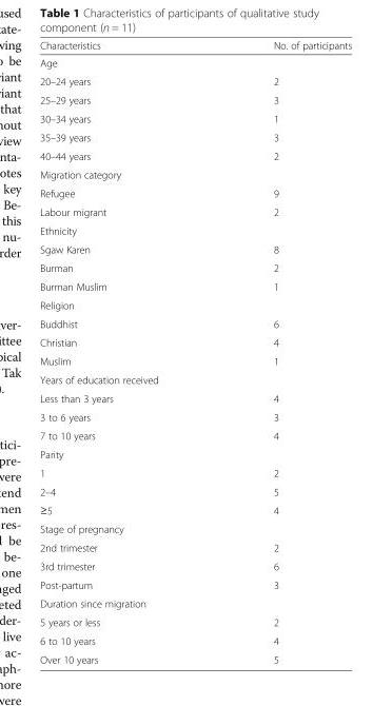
<table><thead><tr><td>Characteristics</td><td>No. of participants</td></tr></thead><tbody><tr><td colspan="2">Age</td></tr><tr><td>20–24 years</td><td>2</td></tr><tr><td>25–29 years</td><td>3</td></tr><tr><td>30–34 years</td><td>1</td></tr><tr><td>35–39 years</td><td>3</td></tr><tr><td>40–44 years</td><td>2</td></tr><tr><td colspan="2">Migration category</td></tr><tr><td>Refugee</td><td>9</td></tr><tr><td>Labour migrant</td><td>2</td></tr><tr><td colspan="2">Ethnicity</td></tr><tr><td>Sgaw Karen</td><td>8</td></tr><tr><td>Burman</td><td>2</td></tr><tr><td>Burman Muslim</td><td>1</td></tr><tr><td colspan="2">Religion</td></tr><tr><td>Buddhist</td><td>6</td></tr><tr><td>Christian</td><td>4</td></tr><tr><td>Muslim</td><td>1</td></tr><tr><td colspan="2">Years of education received</td></tr><tr><td>Less than 3 years</td><td>4</td></tr><tr><td>3 to 6 years</td><td>3</td></tr><tr><td>7 to 10 years</td><td>4</td></tr><tr><td colspan="2">Parity</td></tr><tr><td>1</td><td>2</td></tr><tr><td>2–4</td><td>5</td></tr><tr><td>≥5</td><td>4</td></tr><tr><td colspan="2">Stage of pregnancy</td></tr><tr><td>2nd trimester</td><td>2</td></tr><tr><td>3rd trimester</td><td>6</td></tr><tr><td>Post-partum</td><td>3</td></tr><tr><td colspan="2">Duration since migration</td></tr><tr><td>5 years or less</td><td>2</td></tr><tr><td>6 to 10 years</td><td>4</td></tr><tr><td>Over 10 years</td><td>5</td></tr></tbody></table>